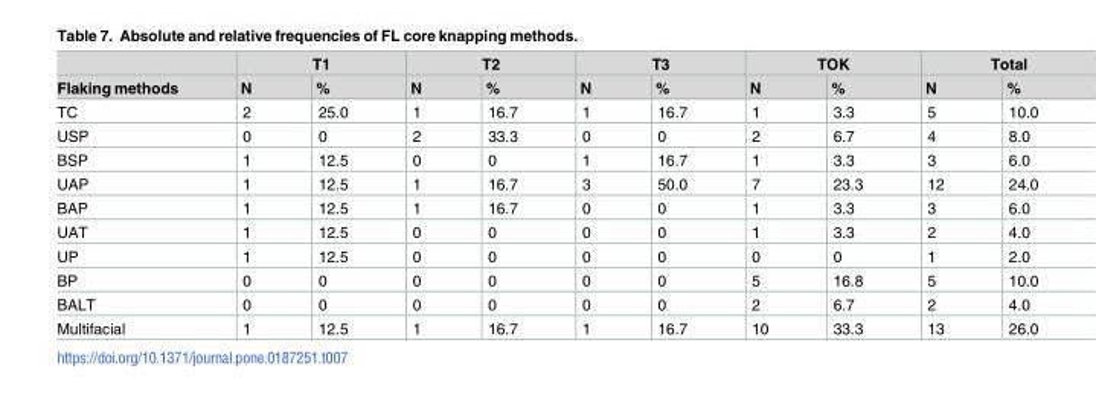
<table><thead><tr><td rowspan="2">Flaking methods</td><td colspan="2">T1</td><td colspan="2">T2</td><td colspan="2">T3</td><td colspan="2">TOK</td><td colspan="2">Total</td></tr><tr><td>N</td><td>%</td><td>N</td><td>%</td><td>N</td><td>%</td><td>N</td><td>%</td><td>N</td><td>%</td></tr></thead><tbody><tr><td>TC</td><td>2</td><td>25.0</td><td>1</td><td>16.7</td><td>1</td><td>16.7</td><td>1</td><td>3.3</td><td>5</td><td>10.0</td></tr><tr><td>USP</td><td>0</td><td>0</td><td>2</td><td>33.3</td><td>0</td><td>0</td><td>2</td><td>6.7</td><td>4</td><td>8.0</td></tr><tr><td>BSP</td><td>1</td><td>12.5</td><td>0</td><td>0</td><td>1</td><td>16.7</td><td>1</td><td>3.3</td><td>3</td><td>6.0</td></tr><tr><td>UAP</td><td>1</td><td>12.5</td><td>1</td><td>16.7</td><td>3</td><td>50.0</td><td>7</td><td>23.3</td><td>12</td><td>24.0</td></tr><tr><td>BAP</td><td>1</td><td>12.5</td><td>1</td><td>16.7</td><td>0</td><td>0</td><td>1</td><td>3.3</td><td>3</td><td>6.0</td></tr><tr><td>UAT</td><td>1</td><td>12.5</td><td>0</td><td>0</td><td>0</td><td>0</td><td>1</td><td>3.3</td><td>2</td><td>4.0</td></tr><tr><td>UP</td><td>1</td><td>12.5</td><td>0</td><td>0</td><td>0</td><td>0</td><td>0</td><td>0</td><td>1</td><td>2.0</td></tr><tr><td>BP</td><td>0</td><td>0</td><td>0</td><td>0</td><td>0</td><td>0</td><td>5</td><td>16.8</td><td>5</td><td>10.0</td></tr><tr><td>BALT</td><td>0</td><td>0</td><td>0</td><td>0</td><td>0</td><td>0</td><td>2</td><td>6.7</td><td>2</td><td>4.0</td></tr><tr><td>Multifacial</td><td>1</td><td>12.5</td><td>1</td><td>16.7</td><td>1</td><td>16.7</td><td>10</td><td>33.3</td><td>13</td><td>26.0</td></tr></tbody></table>